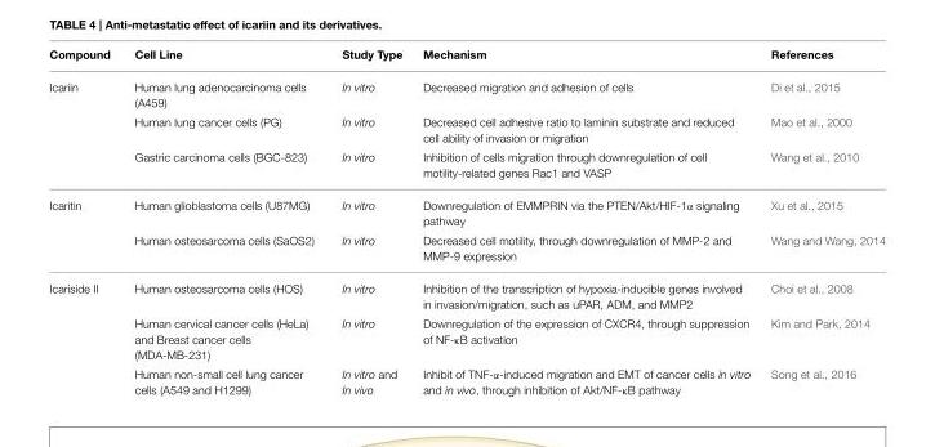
<table><thead><tr><td>Compound</td><td>Cell Line</td><td>Study Type</td><td>Mechanism</td><td>References</td></tr></thead><tbody><tr><td rowspan="3">Icariin</td><td>Human lung adenocarcinoma cells (A459)</td><td>In vitro</td><td>Decreased migration and adhesion of cells</td><td>Di et al., 2015</td></tr><tr><td>Human lung cancer cells (PG)</td><td>In vitro</td><td>Decreased cell adhesive ratio to laminin substrate and reduced cell ability of invasion or migration</td><td>Mao et al., 2000</td></tr><tr><td>Gastric carcinoma cells (BGC-823)</td><td>In vitro</td><td>Inhibition of cells migration through downregulation of cell motility-related genes Rac1 and VASP</td><td>Wang et al., 2010</td></tr><tr><td rowspan="2">Icaritin</td><td>Human glioblastoma cells (U87MG)</td><td>In vitro</td><td>Downregulation of EMMPRIN via the PTEN/Akt/HIF-1α signaling pathway</td><td>Xu et al., 2015</td></tr><tr><td>Human osteosarcoma cells (SaOS2)</td><td>In vitro</td><td>Decreased cell motility, through downregulation of MMP-2 and MMP-9 expression</td><td>Wang and Wang, 2014</td></tr><tr><td rowspan="3">Icariside II</td><td>Human osteosarcoma cells (HOS)</td><td>In vitro</td><td>Inhibition of the transcription of hypoxia-inducible genes involved in invasion/migration, such as uPAR, ADM, and MMP2</td><td>Choi et al., 2008</td></tr><tr><td>Human cervical cancer cells (HeLa) and Breast cancer cells (MDA-MB-231)</td><td>In vitro</td><td>Downregulation of the expression of CXCR4, through suppression of NF-κB activation</td><td>Kim and Park, 2014</td></tr><tr><td>Human non-small cell lung cancer cells (A549 and H1299)</td><td>In vitro and In vivo</td><td>Inhibit of TNF-α-induced migration and EMT of cancer cells in vitro and in vivo, through inhibition of Akt/NF-κB pathway</td><td>Song et al., 2016</td></tr></tbody></table>